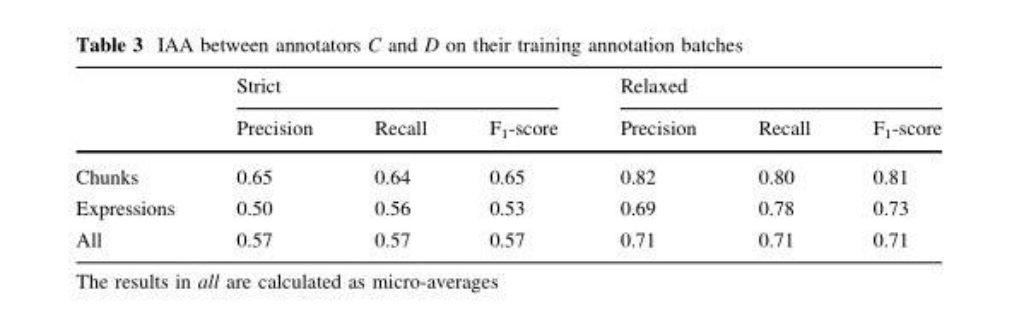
<table><thead><tr><td rowspan="2"></td><td colspan="3">Strict</td><td colspan="3">Relaxed</td></tr><tr><td>Precision</td><td>Recall</td><td>F<sub>1</sub>-score</td><td>Precision</td><td>Recall</td><td>F<sub>1</sub>-score</td></tr></thead><tbody><tr><td>Chunks</td><td>0.65</td><td>0.64</td><td>0.65</td><td>0.82</td><td>0.80</td><td>0.81</td></tr><tr><td>Expressions</td><td>0.50</td><td>0.56</td><td>0.53</td><td>0.69</td><td>0.78</td><td>0.73</td></tr><tr><td>All</td><td>0.57</td><td>0.57</td><td>0.57</td><td>0.71</td><td>0.71</td><td>0.71</td></tr></tbody></table>